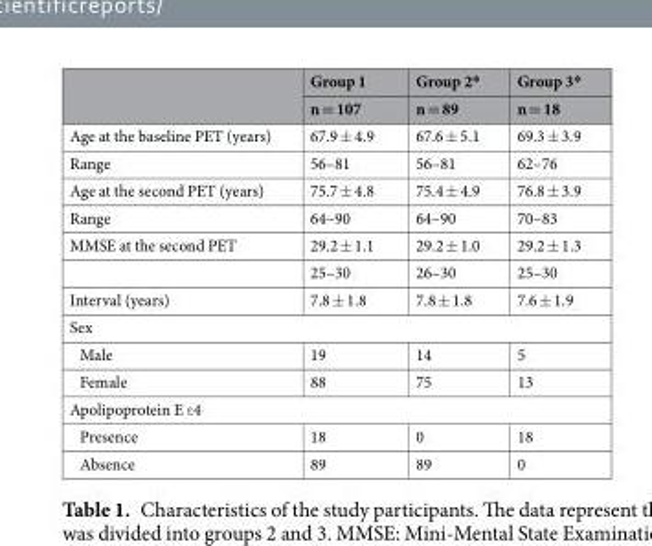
<table><thead><tr><td rowspan="2"></td><td rowspan="2">Group 1 n = 107</td><td rowspan="2">Group 2* n = 89</td><td rowspan="2">Group 3* n = 18</td></tr><tr></tr></thead><tbody><tr><td>Age at the baseline PET (years)</td><td>67.9 ± 4.9</td><td>67.6 ± 5.1</td><td>69.3 ± 3.9</td></tr><tr><td>Range</td><td>56–81</td><td>56–81</td><td>62–76</td></tr><tr><td>Age at the second PET (years)</td><td>75.7 ± 4.8</td><td>75.4 ± 4.9</td><td>76.8 ± 3.9</td></tr><tr><td>Range</td><td>64–90</td><td>64–90</td><td>70–83</td></tr><tr><td rowspan="2">MMSE at the second PET</td><td>29.2 ± 1.1</td><td>29.2 ± 1.0</td><td>29.2 ± 1.3</td></tr><tr><td>25–30</td><td>26–30</td><td>25–30</td></tr><tr><td>Interval (years)</td><td>7.8 ± 1.8</td><td>7.8 ± 1.8</td><td>7.6 ± 1.9</td></tr><tr><td colspan="4">Sex</td></tr><tr><td>Male</td><td>19</td><td>14</td><td>5</td></tr><tr><td>Female</td><td>88</td><td>75</td><td>13</td></tr><tr><td colspan="4">Apolipoprotein E ε4</td></tr><tr><td>Presence</td><td>18</td><td>0</td><td>18</td></tr><tr><td>Absence</td><td>89</td><td>89</td><td>0</td></tr></tbody></table>